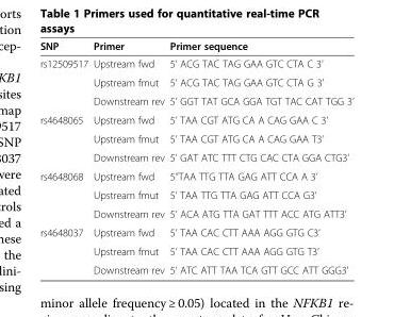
<table><thead><tr><td>SNP</td><td>Primer</td><td>Primer sequence</td></tr></thead><tbody><tr><td rowspan="3">rs12509517</td><td>Upstream fwd</td><td>5’ ACG TAC TAG GAA GTC CTA C 3’</td></tr><tr><td>Upstream fmut</td><td>5’ ACG TAC TAG GAA GTC CTA G 3’</td></tr><tr><td>Downstream rev</td><td>5’ GGT TAT GCA GGA TGT TAC CAT TGG 3’</td></tr><tr><td rowspan="3">rs4648065</td><td>Upstream fwd</td><td>5’ TAA CGT ATG CA A CAG GAA C 3’</td></tr><tr><td>Upstream fmut</td><td>5’ TAA CGT ATG CA A CAG GAA T3’</td></tr><tr><td>Downstream rev</td><td>5’ GAT ATC TTT CTG CAC CTA GGA CTG3’</td></tr><tr><td rowspan="3">rs4648068</td><td>Upstream fwd</td><td>5”TAA TTG TTA GAG ATT CCA A 3’</td></tr><tr><td>Upstream fmut</td><td>5’ TAA TTG TTA GAG ATT CCA G3’</td></tr><tr><td>Downstream rev</td><td>5’ ACA ATG TTA GAT TTT ACC ATG ATT3’</td></tr><tr><td rowspan="3">rs4648037</td><td>Upstream fwd</td><td>5’ TAA CAC CTT AAA AGG GTG C3’</td></tr><tr><td>Upstream fmut</td><td>5’ TAA CAC CTT AAA AGG GTG T3’</td></tr><tr><td>Downstream rev</td><td>5’ ATC ATT TAA TCA GTT GCC ATT GGG3’</td></tr></tbody></table>